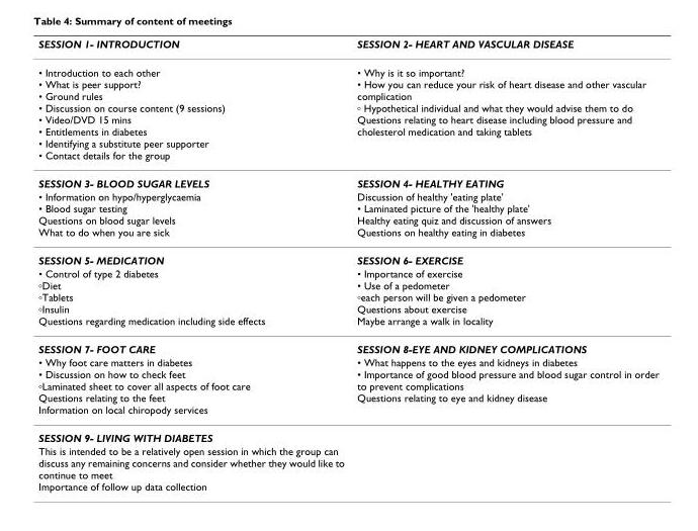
<table><thead><tr><td>SESSION 1- INTRODUCTION</td><td>SESSION 2- HEART AND VASCULAR DISEASE</td></tr></thead><tbody><tr><td>• Introduction to each other • What is peer support? • Ground rules • Discussion on course content (9 sessions) • Video/DVD 15 mins • Entitlements in diabetes • Identifying a substitute peer supporter • Contact details for the group</td><td>• Why is it so important? • How you can reduce your risk of heart disease and other vascular complication ◦ Hypothetical individual and what they would advise them to do Questions relating to heart disease including blood pressure and cholesterol medication and taking tablets</td></tr><tr><td>SESSION 3- BLOOD SUGAR LEVELS</td><td>SESSION 4- HEALTHY EATING</td></tr><tr><td>• Information on hypo/hyperglycaemia • Blood sugar testing Questions on blood sugar levels What to do when you are sick</td><td>Discussion of healthy &#x27;eating plate&#x27; • Laminated picture of the &#x27;healthy plate&#x27; Healthy eating quiz and discussion of answers Questions on healthy eating in diabetes</td></tr><tr><td>SESSION 5- MEDICATION</td><td>SESSION 6- EXERCISE</td></tr><tr><td>• Control of type 2 diabetes ◦Diet ◦Tablets ◦Insulin Questions regarding medication including side effects</td><td>• Importance of exercise • Use of a pedometer ◦each person will be given a pedometer Questions about exercise Maybe arrange a walk in locality</td></tr><tr><td>SESSION 7- FOOT CARE</td><td>SESSION 8-EYE AND KIDNEY COMPLICATIONS</td></tr><tr><td>• Why foot care matters in diabetes • Discussion on how to check feet ◦Laminated sheet to cover all aspects of foot care Questions relating to the feet Information on local chiropody services</td><td>• What happens to the eyes and kidneys in diabetes • Importance of good blood pressure and blood sugar control in order to prevent complications Questions relating to eye and kidney disease</td></tr><tr><td colspan="2">SESSION 9- LIVING WITH DIABETES</td></tr><tr><td>This is intended to be a relatively open session in which the group can discuss any remaining concerns and consider whether they would like to continue to meet Importance of follow up data collection</td><td></td></tr></tbody></table>